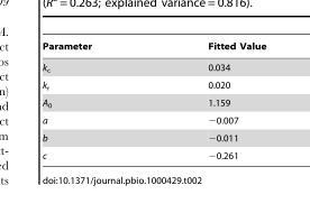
<table><thead><tr><td>Parameter</td><td>Fitted Value</td></tr></thead><tbody><tr><td>k<sub>c</sub></td><td>0.034</td></tr><tr><td>k<sub>r</sub></td><td>0.020</td></tr><tr><td>A<sub>0</sub></td><td>1.159</td></tr><tr><td>a</td><td>−0.007</td></tr><tr><td>b</td><td>−0.011</td></tr><tr><td>c</td><td>−0.261</td></tr></tbody></table>